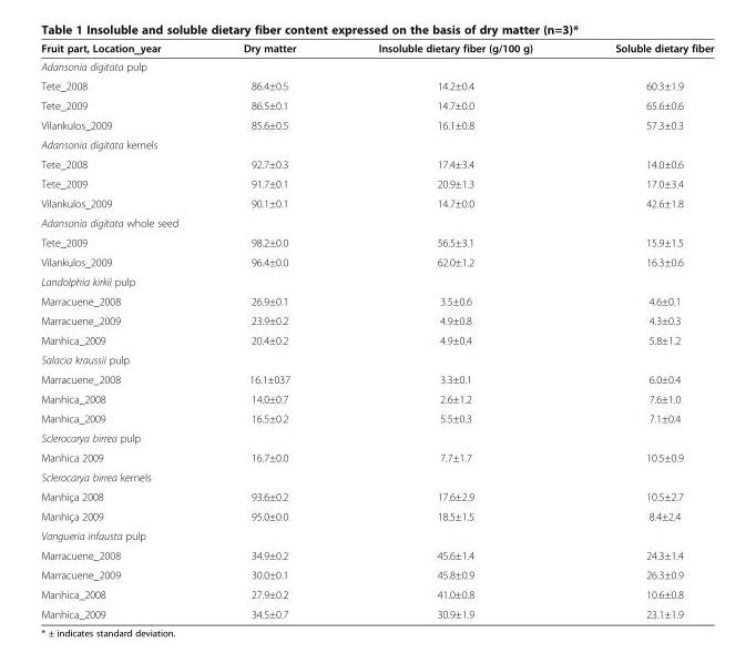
<table><thead><tr><td>Fruit part, Location_year</td><td>Dry matter</td><td>Insoluble dietary fiber (g/100 g)</td><td>Soluble dietary fiber</td></tr></thead><tbody><tr><td colspan="4">Adansonia digitata pulp</td></tr><tr><td>Tete_2008</td><td>86.4±0.5</td><td>14.2±0.4</td><td>60.3±1.9</td></tr><tr><td>Tete_2009</td><td>86.5±0.1</td><td>14.7±0.0</td><td>65.6±0.6</td></tr><tr><td>Vilankulos_2009</td><td>85.6±0.5</td><td>16.1±0.8</td><td>57.3±0.3</td></tr><tr><td colspan="4">Adansonia digitata kernels</td></tr><tr><td>Tete_2008</td><td>92.7±0.3</td><td>17.4±3.4</td><td>14.0±0.6</td></tr><tr><td>Tete_2009</td><td>91.7±0.1</td><td>20.9±1.3</td><td>17.0±3.4</td></tr><tr><td>Vilankulos_2009</td><td>90.1±0.1</td><td>14.7±0.0</td><td>42.6±1.8</td></tr><tr><td colspan="4">Adansonia digitata whole seed</td></tr><tr><td>Tete_2009</td><td>98.2±0.0</td><td>56.5±3.1</td><td>15.9±1.5</td></tr><tr><td>Vilankulos_2009</td><td>96.4±0.0</td><td>62.0±1.2</td><td>16.3±0.6</td></tr><tr><td colspan="4">Landolphia kirkii pulp</td></tr><tr><td>Marracuene_2008</td><td>26.9±0.1</td><td>3.5±0.6</td><td>4.6±0.1</td></tr><tr><td>Marracuene_2009</td><td>23.9±0.2</td><td>4.9±0.8</td><td>4.3±0.3</td></tr><tr><td>Manhica_2009</td><td>20.4±0.2</td><td>4.9±0.4</td><td>5.8±1.2</td></tr><tr><td colspan="4">Salacia kraussii pulp</td></tr><tr><td>Marracuene_2008</td><td>16.1±037</td><td>3.3±0.1</td><td>6.0±0.4</td></tr><tr><td>Manhica_2008</td><td>14.0±0.7</td><td>2.6±1.2</td><td>7.6±1.0</td></tr><tr><td>Manhica_2009</td><td>16.5±0.2</td><td>5.5±0.3</td><td>7.1±0.4</td></tr><tr><td colspan="4">Sclerocarya birrea pulp</td></tr><tr><td>Manhica 2009</td><td>16.7±0.0</td><td>7.7±1.7</td><td>10.5±0.9</td></tr><tr><td colspan="4">Sclerocarya birrea kernels</td></tr><tr><td>Manhiça 2008</td><td>93.6±0.2</td><td>17.6±2.9</td><td>10.5±2.7</td></tr><tr><td>Manhiça 2009</td><td>95.0±0.0</td><td>18.5±1.5</td><td>8.4±2.4</td></tr><tr><td colspan="4">Vangueria infausta pulp</td></tr><tr><td>Marracuene_2008</td><td>34.9±0.2</td><td>45.6±1.4</td><td>24.3±1.4</td></tr><tr><td>Marracuene_2009</td><td>30.0±0.1</td><td>45.8±0.9</td><td>26.3±0.9</td></tr><tr><td>Manhica_2008</td><td>27.9±0.2</td><td>41.0±0.8</td><td>10.6±0.8</td></tr><tr><td>Manhica_2009</td><td>34.5±0.7</td><td>30.9±1.9</td><td>23.1±1.9</td></tr></tbody></table>